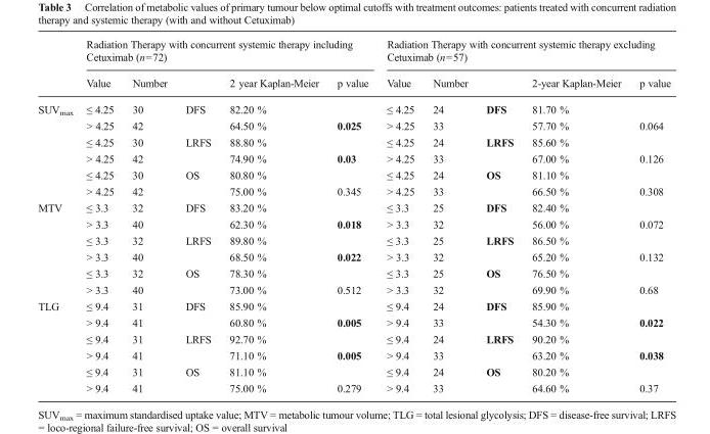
<table><thead><tr><td rowspan="2"></td><td colspan="5">Radiation Therapy with concurrent systemic therapy including Cetuximab (n=72)</td><td colspan="5">Radiation Therapy with concurrent systemic therapy excluding Cetuximab (n=57)</td></tr><tr><td>Value</td><td>Number</td><td></td><td>2 year Kaplan-Meier</td><td>p value</td><td>Value</td><td>Number</td><td></td><td>2-year Kaplan-Meier</td><td>p value</td></tr></thead><tbody><tr><td rowspan="6">SUV<sub>max</sub></td><td>≤ 4.25</td><td>30</td><td rowspan="2">DFS</td><td>82.20 %</td><td></td><td>≤ 4.25</td><td>24</td><td rowspan="2">DFS</td><td>81.70 %</td><td></td></tr><tr><td>&gt; 4.25</td><td>42</td><td>64.50 %</td><td>0.025</td><td>&gt; 4.25</td><td>33</td><td>57.70 %</td><td>0.064</td></tr><tr><td>≤ 4.25</td><td>30</td><td rowspan="2">LRFS</td><td>88.80 %</td><td></td><td>≤ 4.25</td><td>24</td><td rowspan="2">LRFS</td><td>85.60 %</td><td></td></tr><tr><td>&gt; 4.25</td><td>42</td><td>74.90 %</td><td>0.03</td><td>&gt; 4.25</td><td>33</td><td>67.00 %</td><td>0.126</td></tr><tr><td>≤ 4.25</td><td>30</td><td rowspan="2">OS</td><td>80.80 %</td><td></td><td>≤ 4.25</td><td>24</td><td rowspan="2">OS</td><td>81.10 %</td><td></td></tr><tr><td>&gt; 4.25</td><td>42</td><td>75.00 %</td><td>0.345</td><td>&gt; 4.25</td><td>33</td><td>66.50 %</td><td>0.308</td></tr><tr><td rowspan="6">MTV</td><td>≤ 3.3</td><td>32</td><td rowspan="2">DFS</td><td>83.20 %</td><td></td><td>≤ 3.3</td><td>25</td><td rowspan="2">DFS</td><td>82.40 %</td><td></td></tr><tr><td>&gt; 3.3</td><td>40</td><td>62.30 %</td><td>0.018</td><td>&gt; 3.3</td><td>32</td><td>56.00 %</td><td>0.072</td></tr><tr><td>≤ 3.3</td><td>32</td><td rowspan="2">LRFS</td><td>89.80 %</td><td></td><td>≤ 3.3</td><td>25</td><td rowspan="2">LRFS</td><td>86.50 %</td><td></td></tr><tr><td>&gt; 3.3</td><td>40</td><td>68.50 %</td><td>0.022</td><td>&gt; 3.3</td><td>32</td><td>65.20 %</td><td>0.132</td></tr><tr><td>≤ 3.3</td><td>32</td><td rowspan="2">OS</td><td>78.30 %</td><td></td><td>≤ 3.3</td><td>25</td><td rowspan="2">OS</td><td>76.50 %</td><td></td></tr><tr><td>&gt; 3.3</td><td>40</td><td>73.00 %</td><td>0.512</td><td>&gt; 3.3</td><td>32</td><td>69.90 %</td><td>0.68</td></tr><tr><td rowspan="6">TLG</td><td>≤ 9.4</td><td>31</td><td rowspan="2">DFS</td><td>85.90 %</td><td></td><td>≤ 9.4</td><td>24</td><td rowspan="2">DFS</td><td>85.90 %</td><td></td></tr><tr><td>&gt; 9.4</td><td>41</td><td>60.80 %</td><td>0.005</td><td>&gt; 9.4</td><td>33</td><td>54.30 %</td><td>0.022</td></tr><tr><td>≤ 9.4</td><td>31</td><td rowspan="2">LRFS</td><td>92.70 %</td><td></td><td>≤ 9.4</td><td>24</td><td rowspan="2">LRFS</td><td>90.20 %</td><td></td></tr><tr><td>&gt; 9.4</td><td>41</td><td>71.10 %</td><td>0.005</td><td>&gt; 9.4</td><td>33</td><td>63.20 %</td><td>0.038</td></tr><tr><td>≤ 9.4</td><td>31</td><td rowspan="2">OS</td><td>81.10 %</td><td></td><td>≤ 9.4</td><td>24</td><td rowspan="2">OS</td><td>80.20 %</td><td></td></tr><tr><td>&gt; 9.4</td><td>41</td><td>75.00 %</td><td>0.279</td><td>&gt; 9.4</td><td>33</td><td>64.60 %</td><td>0.37</td></tr></tbody></table>